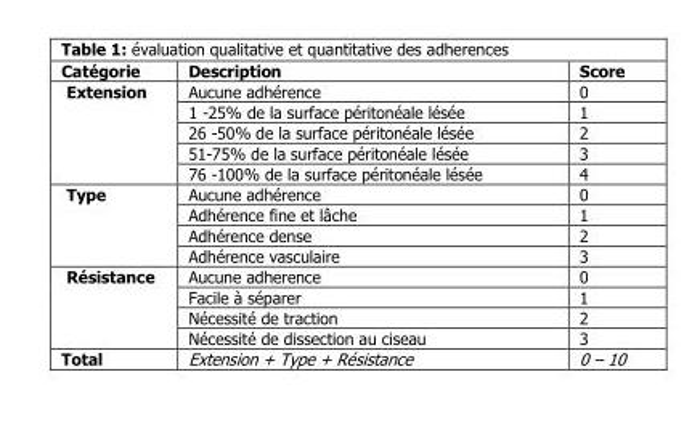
<table><thead><tr><td>Catégorie</td><td>Description</td><td>Score</td></tr></thead><tbody><tr><td rowspan="5">Extension</td><td>Aucune adhérence</td><td>0</td></tr><tr><td>1 -25% de la surface péritonéale lésée</td><td>1</td></tr><tr><td>26 -50% de la surface péritonéale lésée</td><td>2</td></tr><tr><td>51-75% de la surface péritonéale lésée</td><td>3</td></tr><tr><td>76 -100% de la surface péritonéale lésée</td><td>4</td></tr><tr><td rowspan="4">Type</td><td>Aucune adhérence</td><td>0</td></tr><tr><td>Adhérence fine et lâche</td><td>1</td></tr><tr><td>Adhérence dense</td><td>2</td></tr><tr><td>Adhérence vasculaire</td><td>3</td></tr><tr><td rowspan="4">Résistance</td><td>Aucune adherence</td><td>0</td></tr><tr><td>Facile à séparer</td><td>1</td></tr><tr><td>Nécessité de traction</td><td>2</td></tr><tr><td>Nécessité de dissection au ciseau</td><td>3</td></tr><tr><td>Total</td><td>Extension + Type + Résistance</td><td>0 – 10</td></tr></tbody></table>